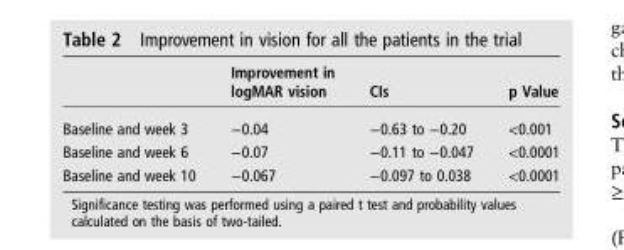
<table><thead><tr><td></td><td>Improvement in logMAR vision</td><td>CIs</td><td>p Value</td></tr></thead><tbody><tr><td>Baseline and week 3</td><td>−0.04</td><td>−0.63 to −0.20</td><td>&lt;0.001</td></tr><tr><td>Baseline and week 6</td><td>−0.07</td><td>−0.11 to −0.047</td><td>&lt;0.0001</td></tr><tr><td>Baseline and week 10</td><td>−0.067</td><td>−0.097 to 0.038</td><td>&lt;0.0001</td></tr></tbody></table>